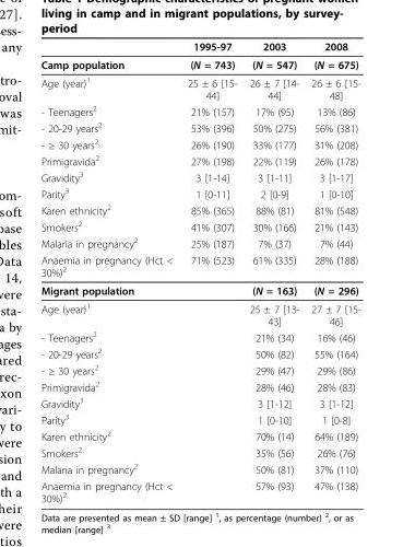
<table><thead><tr><td></td><td>1995-97</td><td>2003</td><td>2008</td></tr></thead><tbody><tr><td>Camp population</td><td>(N = 743)</td><td>(N = 547)</td><td>(N = 675)</td></tr><tr><td>Age (year)<sup>1</sup></td><td>25 ± 6 [15- 44]</td><td>26 ± 7 [14- 44]</td><td>26 ± 6 [15- 48]</td></tr><tr><td>- Teenagers<sup>2</sup></td><td>21% (157)</td><td>17% (95)</td><td>13% (86)</td></tr><tr><td>- 20-29 years<sup>2</sup></td><td>53% (396)</td><td>50% (275)</td><td>56% (381)</td></tr><tr><td>- ≥ 30 years<sup>2</sup></td><td>26% (190)</td><td>33% (177)</td><td>31% (208)</td></tr><tr><td>Primigravida<sup>2</sup></td><td>27% (198)</td><td>22% (119)</td><td>26% (178)</td></tr><tr><td>Gravidity<sup>3</sup></td><td>3 [1-14]</td><td>3 [1-11]</td><td>3 [1-17]</td></tr><tr><td>Parity<sup>3</sup></td><td>1 [0-11]</td><td>2 [0-9]</td><td>1 [0-10]</td></tr><tr><td>Karen ethnicity<sup>2</sup></td><td>85% (365)</td><td>88% (81)</td><td>81% (548)</td></tr><tr><td>Smokers<sup>2</sup></td><td>41% (307)</td><td>30% (166)</td><td>21% (143)</td></tr><tr><td>Malaria in pregnancy<sup>2</sup></td><td>25% (187)</td><td>7% (37)</td><td>7% (44)</td></tr><tr><td>Anaemia in pregnancy (Hct &lt; 30%)<sup>2</sup></td><td>71% (523)</td><td>61% (335)</td><td>28% (188)</td></tr><tr><td>Migrant population</td><td></td><td>(N = 163)</td><td>(N = 296)</td></tr><tr><td>Age (year)<sup>1</sup></td><td></td><td>25 ± 7 [13- 43]</td><td>27 ± 7 [15- 46]</td></tr><tr><td>- Teenagers<sup>2</sup></td><td></td><td>21% (34)</td><td>16% (46)</td></tr><tr><td>- 20-29 years<sup>2</sup></td><td></td><td>50% (82)</td><td>55% (164)</td></tr><tr><td>- ≥ 30 years<sup>2</sup></td><td></td><td>29% (47)</td><td>29% (86)</td></tr><tr><td>Primigravida<sup>2</sup></td><td></td><td>28% (46)</td><td>28% (83)</td></tr><tr><td>Gravidity<sup>3</sup></td><td></td><td>3 [1-12]</td><td>3 [1-12]</td></tr><tr><td>Parity<sup>3</sup></td><td></td><td>1 [0-10]</td><td>1 [0-8]</td></tr><tr><td>Karen ethnicity<sup>2</sup></td><td></td><td>70% (14)</td><td>64% (189)</td></tr><tr><td>Smokers<sup>2</sup></td><td></td><td>35% (56)</td><td>26% (76)</td></tr><tr><td>Malaria in pregnancy<sup>2</sup></td><td></td><td>50% (81)</td><td>37% (110)</td></tr><tr><td>Anaemia in pregnancy (Hct &lt; 30%)<sup>2</sup></td><td></td><td>57% (93)</td><td>47% (138)</td></tr></tbody></table>